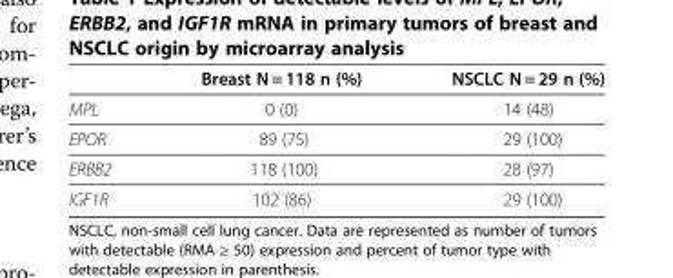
<table><thead><tr><td></td><td>Breast N = 118 n (%)</td><td>NSCLC N = 29 n (%)</td></tr></thead><tbody><tr><td>MPL</td><td>0 (0)</td><td>14 (48)</td></tr><tr><td>EPOR</td><td>89 (75)</td><td>29 (100)</td></tr><tr><td>ERBB2</td><td>118 (100)</td><td>28 (97)</td></tr><tr><td>IGF1R</td><td>102 (86)</td><td>29 (100)</td></tr></tbody></table>